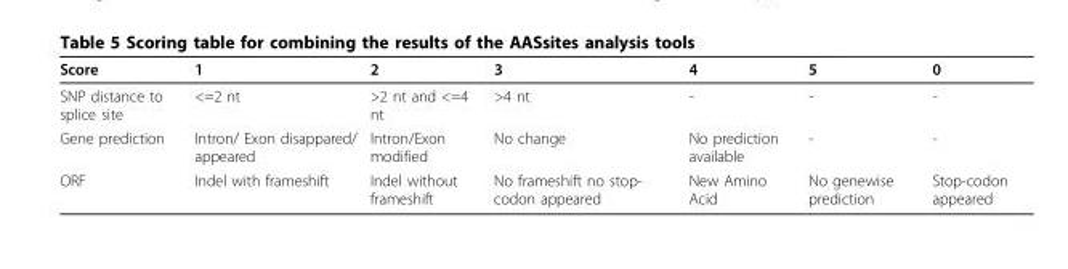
<table><thead><tr><td>Score</td><td>1</td><td>2</td><td>3</td><td>4</td><td>5</td><td>0</td></tr></thead><tbody><tr><td>SNP distance to splice site</td><td>&lt;=2 nt</td><td>&gt;2 nt and &lt;=4 nt</td><td>&gt;4 nt</td><td>-</td><td>-</td><td>-</td></tr><tr><td>Gene prediction</td><td>Intron/ Exon disappared/ appeared</td><td>Intron/Exon modified</td><td>No change</td><td>No prediction available</td><td>-</td><td>-</td></tr><tr><td>ORF</td><td>Indel with frameshift</td><td>Indel without frameshift</td><td>No frameshift no stop- codon appeared</td><td>New Amino Acid</td><td>No genewise prediction</td><td>Stop-codon appeared</td></tr></tbody></table>